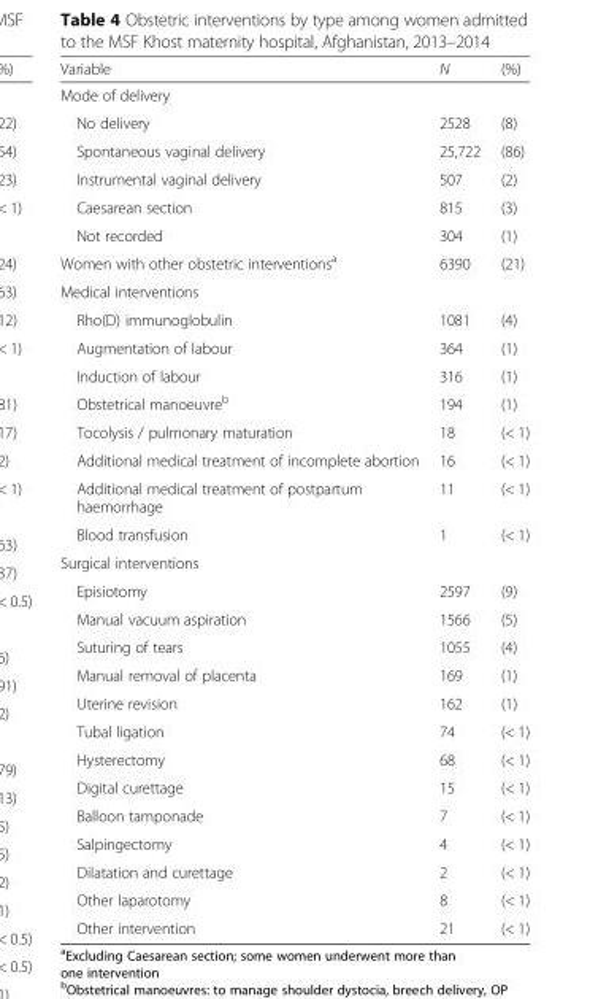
<table><thead><tr><td>Variable</td><td>N</td><td>(%)</td></tr></thead><tbody><tr><td colspan="3">Mode of delivery</td></tr><tr><td>No delivery</td><td>2528</td><td>(8)</td></tr><tr><td>Spontaneous vaginal delivery</td><td>25,722</td><td>(86)</td></tr><tr><td>Instrumental vaginal delivery</td><td>507</td><td>(2)</td></tr><tr><td>Caesarean section</td><td>815</td><td>(3)</td></tr><tr><td>Not recorded</td><td>304</td><td>(1)</td></tr><tr><td>Women with other obstetric interventions<sup>a</sup></td><td>6390</td><td>(21)</td></tr><tr><td colspan="3">Medical interventions</td></tr><tr><td>Rho(D) immunoglobulin</td><td>1081</td><td>(4)</td></tr><tr><td>Augmentation of labour</td><td>364</td><td>(1)</td></tr><tr><td>Induction of labour</td><td>316</td><td>(1)</td></tr><tr><td>Obstetrical manoeuvre<sup>b</sup></td><td>194</td><td>(1)</td></tr><tr><td>Tocolysis / pulmonary maturation</td><td>18</td><td>(&lt; 1)</td></tr><tr><td>Additional medical treatment of incomplete abortion</td><td>16</td><td>(&lt; 1)</td></tr><tr><td>Additional medical treatment of postpartum haemorrhage</td><td>11</td><td>(&lt; 1)</td></tr><tr><td>Blood transfusion</td><td>1</td><td>(&lt; 1)</td></tr><tr><td colspan="3">Surgical interventions</td></tr><tr><td>Episiotomy</td><td>2597</td><td>(9)</td></tr><tr><td>Manual vacuum aspiration</td><td>1566</td><td>(5)</td></tr><tr><td>Suturing of tears</td><td>1055</td><td>(4)</td></tr><tr><td>Manual removal of placenta</td><td>169</td><td>(1)</td></tr><tr><td>Uterine revision</td><td>162</td><td>(1)</td></tr><tr><td>Tubal ligation</td><td>74</td><td>(&lt; 1)</td></tr><tr><td>Hysterectomy</td><td>68</td><td>(&lt; 1)</td></tr><tr><td>Digital curettage</td><td>15</td><td>(&lt; 1)</td></tr><tr><td>Balloon tamponade</td><td>7</td><td>(&lt; 1)</td></tr><tr><td>Salpingectomy</td><td>4</td><td>(&lt; 1)</td></tr><tr><td>Dilatation and curettage</td><td>2</td><td>(&lt; 1)</td></tr><tr><td>Other laparotomy</td><td>8</td><td>(&lt; 1)</td></tr><tr><td>Other intervention</td><td>21</td><td>(&lt; 1)</td></tr></tbody></table>